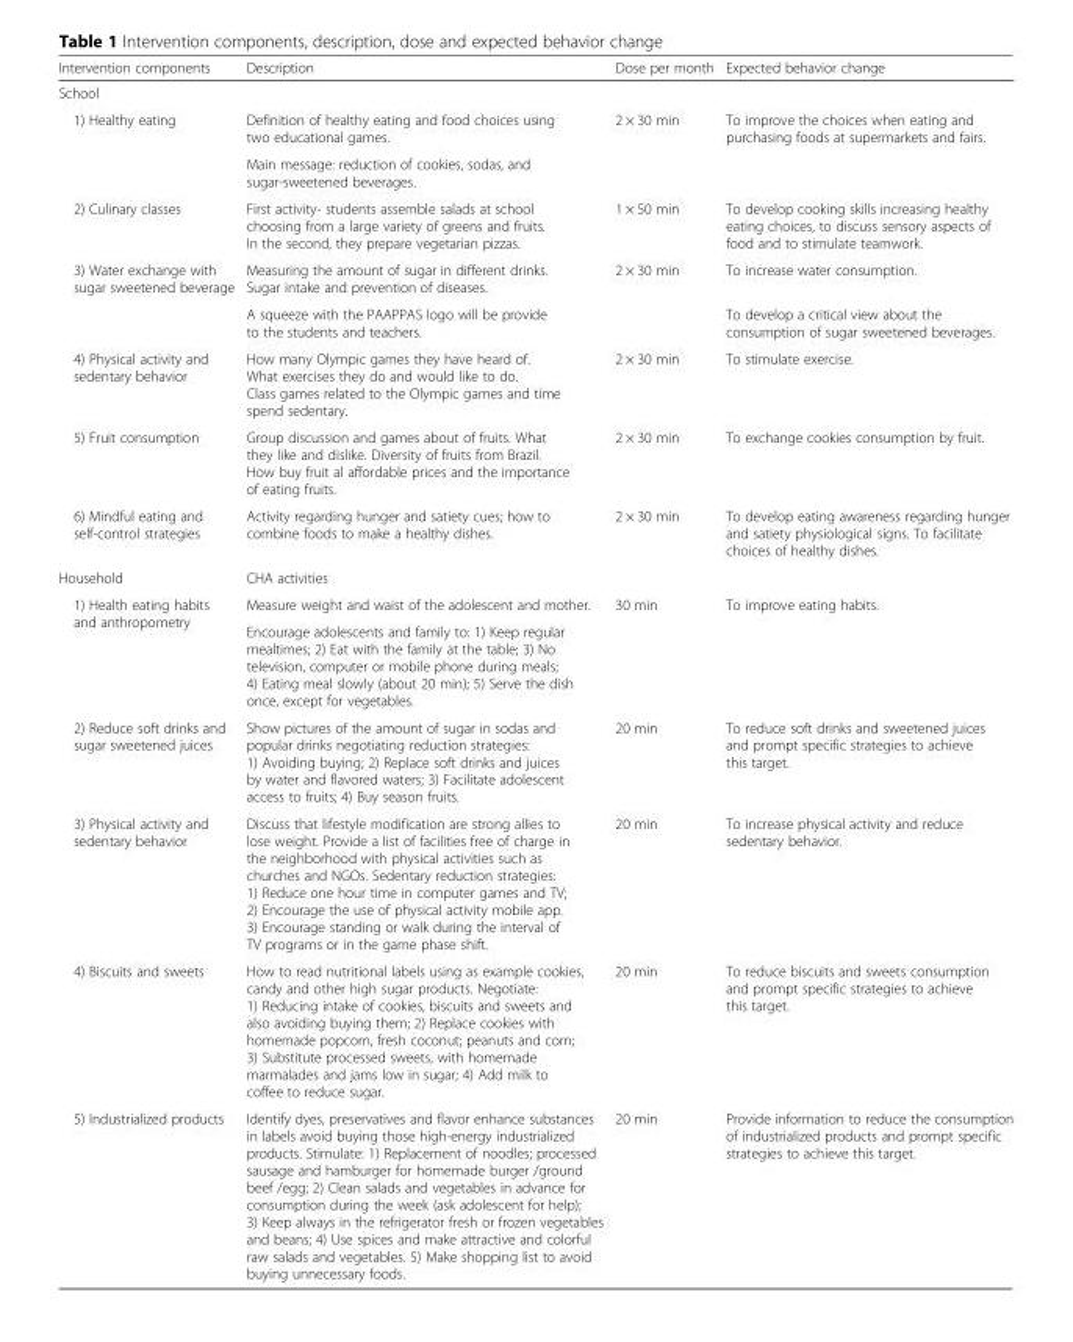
<table><thead><tr><td>Intervention components</td><td>Description</td><td>Dose per month</td><td>Expected behavior change</td></tr></thead><tbody><tr><td colspan="4">School</td></tr><tr><td rowspan="2">1) Healthy eating</td><td>Definition of healthy eating and food choices using two educational games.</td><td rowspan="2">2 × 30 min</td><td rowspan="2">To improve the choices when eating and purchasing foods at supermarkets and fairs.</td></tr><tr><td>Main message: reduction of cookies, sodas, and sugar-sweetened beverages.</td></tr><tr><td>2) Culinary classes</td><td>First activity- students assemble salads at school choosing from a large variety of greens and fruits. In the second, they prepare vegetarian pizzas.</td><td>1 × 50 min</td><td>To develop cooking skills increasing healthy eating choices, to discuss sensory aspects of food and to stimulate teamwork.</td></tr><tr><td rowspan="2">3) Water exchange with sugar sweetened beverage</td><td>Measuring the amount of sugar in different drinks. Sugar intake and prevention of diseases.</td><td rowspan="2">2 × 30 min</td><td>To increase water consumption.</td></tr><tr><td>A squeeze with the PAAPPAS logo will be provide to the students and teachers.</td><td>To develop a critical view about the consumption of sugar sweetened beverages.</td></tr><tr><td>4) Physical activity and sedentary behavior</td><td>How many Olympic games they have heard of. What exercises they do and would like to do. Class games related to the Olympic games and time spend sedentary.</td><td>2 × 30 min</td><td>To stimulate exercise.</td></tr><tr><td>5) Fruit consumption</td><td>Group discussion and games about of fruits. What they like and dislike. Diversity of fruits from Brazil. How buy fruit al affordable prices and the importance of eating fruits.</td><td>2 × 30 min</td><td>To exchange cookies consumption by fruit.</td></tr><tr><td>6) Mindful eating and self-control strategies</td><td>Activity regarding hunger and satiety cues; how to combine foods to make a healthy dishes.</td><td>2 × 30 min</td><td>To develop eating awareness regarding hunger and satiety physiological signs. To facilitate choices of healthy dishes.</td></tr><tr><td>Household</td><td colspan="3">CHA activities</td></tr><tr><td rowspan="2">1) Health eating habits and anthropometry</td><td>Measure weight and waist of the adolescent and mother.</td><td rowspan="2">30 min</td><td rowspan="2">To improve eating habits.</td></tr><tr><td>Encourage adolescents and family to: 1) Keep regular mealtimes; 2) Eat with the family at the table; 3) No television, computer or mobile phone during meals; 4) Eating meal slowly (about 20 min); 5) Serve the dish once, except for vegetables.</td></tr><tr><td>2) Reduce soft drinks and sugar sweetened juices</td><td>Show pictures of the amount of sugar in sodas and popular drinks negotiating reduction strategies: 1) Avoiding buying; 2) Replace soft drinks and juices by water and flavored waters; 3) Facilitate adolescent access to fruits; 4) Buy season fruits.</td><td>20 min</td><td>To reduce soft drinks and sweetened juices and prompt specific strategies to achieve this target.</td></tr><tr><td>3) Physical activity and sedentary behavior</td><td>Discuss that lifestyle modification are strong allies to lose weight. Provide a list of facilities free of charge in the neighborhood with physical activities such as churches and NGOs. Sedentary reduction strategies: 1) Reduce one hour time in computer games and TV; 2) Encourage the use of physical activity mobile app. 3) Encourage standing or walk during the interval of TV programs or in the game phase shift.</td><td>20 min</td><td>To increase physical activity and reduce sedentary behavior.</td></tr><tr><td>4) Biscuits and sweets</td><td>How to read nutritional labels using as example cookies, candy and other high sugar products. Negotiate: 1) Reducing intake of cookies, biscuits and sweets and also avoiding buying them; 2) Replace cookies with homemade popcorn, fresh coconut; peanuts and corn; 3) Substitute processed sweets, with homemade marmalades and jams low in sugar; 4) Add milk to coffee to reduce sugar.</td><td>20 min</td><td>To reduce biscuits and sweets consumption and prompt specific strategies to achieve this target.</td></tr><tr><td>5) Industrialized products</td><td>Identify dyes, preservatives and flavor enhance substances in labels avoid buying those high-energy industrialized products. Stimulate: 1) Replacement of noodles; processed sausage and hamburger for homemade burger /ground beef /egg; 2) Clean salads and vegetables in advance for consumption during the week (ask adolescent for help); 3) Keep always in the refrigerator fresh or frozen vegetables and beans; 4) Use spices and make attractive and colorful raw salads and vegetables. 5) Make shopping list to avoid buying unnecessary foods.</td><td>20 min</td><td>Provide information to reduce the consumption of industrialized products and prompt specific strategies to achieve this target.</td></tr></tbody></table>